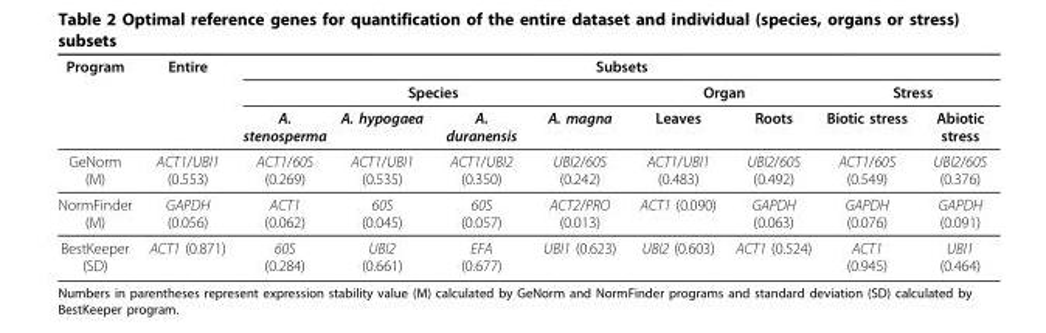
<table><thead><tr><td rowspan="3">Program</td><td rowspan="3">Entire</td><td colspan="8">Subsets</td></tr><tr><td colspan="4">Species</td><td colspan="2">Organ</td><td colspan="2">Stress</td></tr><tr><td>A. stenosperma</td><td>A. hypogaea</td><td>A. duranensis</td><td>A. magna</td><td>Leaves</td><td>Roots</td><td>Biotic stress</td><td>Abiotic stress</td></tr></thead><tbody><tr><td>GeNorm (M)</td><td>ACT1/UBI1 (0.553)</td><td>ACT1/60S (0.269)</td><td>ACT1/UBI1 (0.535)</td><td>ACT1/UBI2 (0.350)</td><td>UBI2/60S (0.242)</td><td>ACT1/UBI1 (0.483)</td><td>UBI2/60S (0.492)</td><td>ACT1/60S (0.549)</td><td>UBI2/60S (0.376)</td></tr><tr><td>NormFinder (M)</td><td>GAPDH (0.056)</td><td>ACT1 (0.062)</td><td>60S (0.045)</td><td>60S (0.057)</td><td>ACT2/PRO (0.013)</td><td>ACT1 (0.090)</td><td>GAPDH (0.063)</td><td>GAPDH (0.076)</td><td>GAPDH (0.091)</td></tr><tr><td>BestKeeper (SD)</td><td>ACT1 (0.871)</td><td>60S (0.284)</td><td>UBI2 (0.661)</td><td>EFA (0.677)</td><td>UBI1 (0.623)</td><td>UBI2 (0.603)</td><td>ACT1 (0.524)</td><td>ACT1 (0.945)</td><td>UBI1 (0.464)</td></tr></tbody></table>